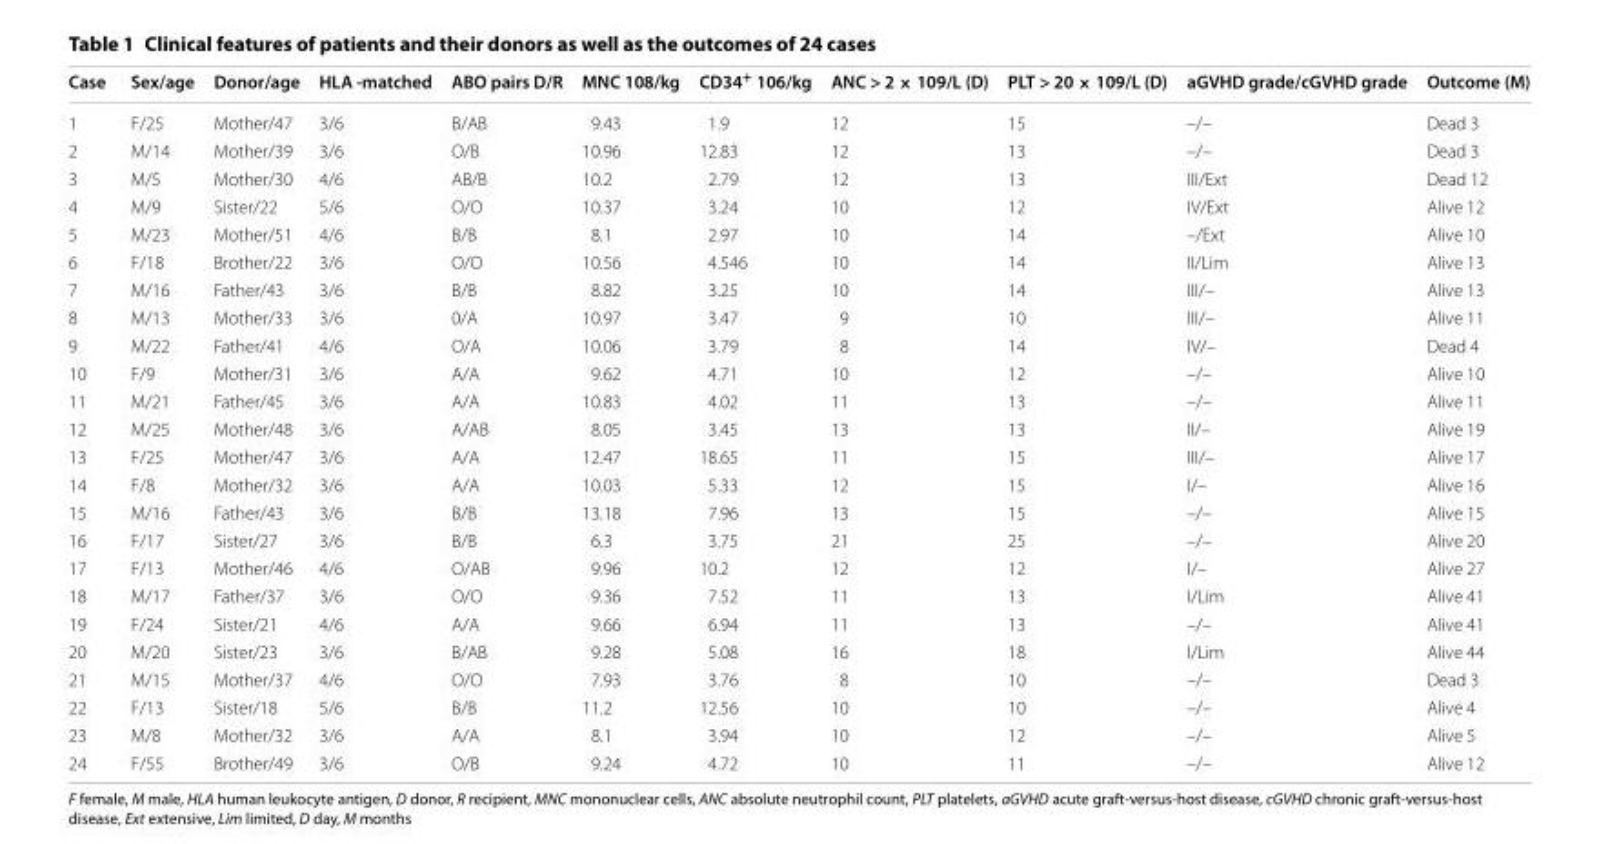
<table><thead><tr><td>Case</td><td>Sex/age</td><td>Donor/age</td><td>HLA ‑matched</td><td>ABO pairs D/R</td><td>MNC 108/kg</td><td>CD34<sup>+</sup> 106/kg</td><td>ANC &gt; 2 × 109/L (D)</td><td>PLT &gt; 20 × 109/L (D)</td><td>aGVHD grade/cGVHD grade</td><td>Outcome (M)</td></tr></thead><tbody><tr><td>1</td><td>F/25</td><td>Mother/47</td><td>3/6</td><td>B/AB</td><td>9.43</td><td>1.9</td><td>12</td><td>15</td><td>–/–</td><td>Dead 3</td></tr><tr><td>2</td><td>M/14</td><td>Mother/39</td><td>3/6</td><td>O/B</td><td>10.96</td><td>12.83</td><td>12</td><td>13</td><td>–/–</td><td>Dead 3</td></tr><tr><td>3</td><td>M/5</td><td>Mother/30</td><td>4/6</td><td>AB/B</td><td>10.2</td><td>2.79</td><td>12</td><td>13</td><td>III/Ext</td><td>Dead 12</td></tr><tr><td>4</td><td>M/9</td><td>Sister/22</td><td>5/6</td><td>O/O</td><td>10.37</td><td>3.24</td><td>10</td><td>12</td><td>IV/Ext</td><td>Alive 12</td></tr><tr><td>5</td><td>M/23</td><td>Mother/51</td><td>4/6</td><td>B/B</td><td>8.1</td><td>2.97</td><td>10</td><td>14</td><td>–/Ext</td><td>Alive 10</td></tr><tr><td>6</td><td>F/18</td><td>Brother/22</td><td>3/6</td><td>O/O</td><td>10.56</td><td>4.546</td><td>10</td><td>14</td><td>II/Lim</td><td>Alive 13</td></tr><tr><td>7</td><td>M/16</td><td>Father/43</td><td>3/6</td><td>B/B</td><td>8.82</td><td>3.25</td><td>10</td><td>14</td><td>III/–</td><td>Alive 13</td></tr><tr><td>8</td><td>M/13</td><td>Mother/33</td><td>3/6</td><td>0/A</td><td>10.97</td><td>3.47</td><td>9</td><td>10</td><td>III/–</td><td>Alive 11</td></tr><tr><td>9</td><td>M/22</td><td>Father/41</td><td>4/6</td><td>O/A</td><td>10.06</td><td>3.79</td><td>8</td><td>14</td><td>IV/–</td><td>Dead 4</td></tr><tr><td>10</td><td>F/9</td><td>Mother/31</td><td>3/6</td><td>A/A</td><td>9.62</td><td>4.71</td><td>10</td><td>12</td><td>–/–</td><td>Alive 10</td></tr><tr><td>11</td><td>M/21</td><td>Father/45</td><td>3/6</td><td>A/A</td><td>10.83</td><td>4.02</td><td>11</td><td>13</td><td>–/–</td><td>Alive 11</td></tr><tr><td>12</td><td>M/25</td><td>Mother/48</td><td>3/6</td><td>A/AB</td><td>8.05</td><td>3.45</td><td>13</td><td>13</td><td>II/–</td><td>Alive 19</td></tr><tr><td>13</td><td>F/25</td><td>Mother/47</td><td>3/6</td><td>A/A</td><td>12.47</td><td>18.65</td><td>11</td><td>15</td><td>III/–</td><td>Alive 17</td></tr><tr><td>14</td><td>F/8</td><td>Mother/32</td><td>3/6</td><td>A/A</td><td>10.03</td><td>5.33</td><td>12</td><td>15</td><td>I/–</td><td>Alive 16</td></tr><tr><td>15</td><td>M/16</td><td>Father/43</td><td>3/6</td><td>B/B</td><td>13.18</td><td>7.96</td><td>13</td><td>15</td><td>–/–</td><td>Alive 15</td></tr><tr><td>16</td><td>F/17</td><td>Sister/27</td><td>3/6</td><td>B/B</td><td>6.3</td><td>3.75</td><td>21</td><td>25</td><td>–/–</td><td>Alive 20</td></tr><tr><td>17</td><td>F/13</td><td>Mother/46</td><td>4/6</td><td>O/AB</td><td>9.96</td><td>10.2</td><td>12</td><td>12</td><td>I/–</td><td>Alive 27</td></tr><tr><td>18</td><td>M/17</td><td>Father/37</td><td>3/6</td><td>O/O</td><td>9.36</td><td>7.52</td><td>11</td><td>13</td><td>I/Lim</td><td>Alive 41</td></tr><tr><td>19</td><td>F/24</td><td>Sister/21</td><td>4/6</td><td>A/A</td><td>9.66</td><td>6.94</td><td>11</td><td>13</td><td>–/–</td><td>Alive 41</td></tr><tr><td>20</td><td>M/20</td><td>Sister/23</td><td>3/6</td><td>B/AB</td><td>9.28</td><td>5.08</td><td>16</td><td>18</td><td>I/Lim</td><td>Alive 44</td></tr><tr><td>21</td><td>M/15</td><td>Mother/37</td><td>4/6</td><td>O/O</td><td>7.93</td><td>3.76</td><td>8</td><td>10</td><td>–/–</td><td>Dead 3</td></tr><tr><td>22</td><td>F/13</td><td>Sister/18</td><td>5/6</td><td>B/B</td><td>11.2</td><td>12.56</td><td>10</td><td>10</td><td>–/–</td><td>Alive 4</td></tr><tr><td>23</td><td>M/8</td><td>Mother/32</td><td>3/6</td><td>A/A</td><td>8.1</td><td>3.94</td><td>10</td><td>12</td><td>–/–</td><td>Alive 5</td></tr><tr><td>24</td><td>F/55</td><td>Brother/49</td><td>3/6</td><td>O/B</td><td>9.24</td><td>4.72</td><td>10</td><td>11</td><td>–/–</td><td>Alive 12</td></tr></tbody></table>